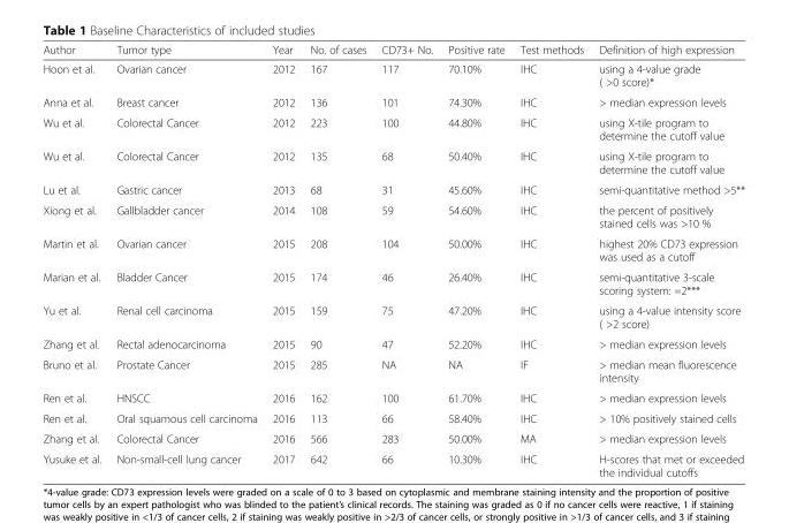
<table><thead><tr><td>Author</td><td>Tumor type</td><td>Year</td><td>No. of cases</td><td>CD73+ No.</td><td>Positive rate</td><td>Test methods</td><td>Definition of high expression</td></tr></thead><tbody><tr><td>Hoon et al.</td><td>Ovarian cancer</td><td>2012</td><td>167</td><td>117</td><td>70.10%</td><td>IHC</td><td>using a 4-value grade ( &gt;0 score)*</td></tr><tr><td>Anna et al.</td><td>Breast cancer</td><td>2012</td><td>136</td><td>101</td><td>74.30%</td><td>IHC</td><td>&gt; median expression levels</td></tr><tr><td>Wu et al.</td><td>Colorectal Cancer</td><td>2012</td><td>223</td><td>100</td><td>44.80%</td><td>IHC</td><td>using X-tile program to determine the cutoff value</td></tr><tr><td>Wu et al.</td><td>Colorectal Cancer</td><td>2012</td><td>135</td><td>68</td><td>50.40%</td><td>IHC</td><td>using X-tile program to determine the cutoff value</td></tr><tr><td>Lu et al.</td><td>Gastric cancer</td><td>2013</td><td>68</td><td>31</td><td>45.60%</td><td>IHC</td><td>semi-quantitative method &gt;5**</td></tr><tr><td>Xiong et al.</td><td>Gallbladder cancer</td><td>2014</td><td>108</td><td>59</td><td>54.60%</td><td>IHC</td><td>the percent of positively stained cells was &gt;10 %</td></tr><tr><td>Martin et al.</td><td>Ovarian cancer</td><td>2015</td><td>208</td><td>104</td><td>50.00%</td><td>IHC</td><td>highest 20% CD73 expression was used as a cutoff</td></tr><tr><td>Marian et al.</td><td>Bladder Cancer</td><td>2015</td><td>174</td><td>46</td><td>26.40%</td><td>IHC</td><td>semi-quantitative 3-scale scoring system: =2***</td></tr><tr><td>Yu et al.</td><td>Renal cell carcinoma</td><td>2015</td><td>159</td><td>75</td><td>47.20%</td><td>IHC</td><td>using a 4-value intensity score ( &gt;2 score)</td></tr><tr><td>Zhang et al.</td><td>Rectal adenocarcinoma</td><td>2015</td><td>90</td><td>47</td><td>52.20%</td><td>IHC</td><td>&gt; median expression levels</td></tr><tr><td>Bruno et al.</td><td>Prostate Cancer</td><td>2015</td><td>285</td><td>NA</td><td>NA</td><td>IF</td><td>&gt; median mean fluorescence intensity</td></tr><tr><td>Ren et al.</td><td>HNSCC</td><td>2016</td><td>162</td><td>100</td><td>61.70%</td><td>IHC</td><td>&gt; median expression levels</td></tr><tr><td>Ren et al.</td><td>Oral squamous cell carcinoma</td><td>2016</td><td>113</td><td>66</td><td>58.40%</td><td>IHC</td><td>&gt; 10% positively stained cells</td></tr><tr><td>Zhang et al.</td><td>Colorectal Cancer</td><td>2016</td><td>566</td><td>283</td><td>50.00%</td><td>MA</td><td>&gt; median expression levels</td></tr><tr><td>Yusuke et al.</td><td>Non-small-cell lung cancer</td><td>2017</td><td>642</td><td>66</td><td>10.30%</td><td>IHC</td><td>H-scores that met or exceeded the individual cutoffs</td></tr></tbody></table>